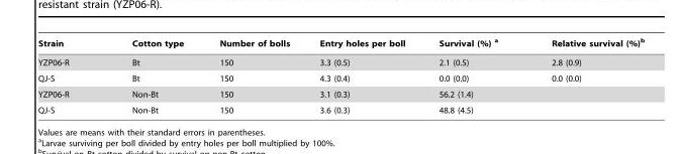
<table><thead><tr><td>Strain</td><td>Cotton type</td><td>Number of bolls</td><td>Entry holes per boll</td><td>Survival (%) a</td><td>Relative survival (%)<sup>b</sup></td></tr></thead><tbody><tr><td>YZP06-R</td><td>Bt</td><td>150</td><td>3.3 (0.5)</td><td>2.1 (0.5)</td><td>2.8 (0.9)</td></tr><tr><td>QJ-S</td><td>Bt</td><td>150</td><td>4.3 (0.4)</td><td>0.0 (0.0)</td><td>0.0 (0.0)</td></tr><tr><td>YZP06-R</td><td>Non-Bt</td><td>150</td><td>3.1 (0.3)</td><td>56.2 (1.4)</td><td></td></tr><tr><td>QJ-S</td><td>Non-Bt</td><td>150</td><td>3.6 (0.3)</td><td>48.8 (4.5)</td><td></td></tr></tbody></table>